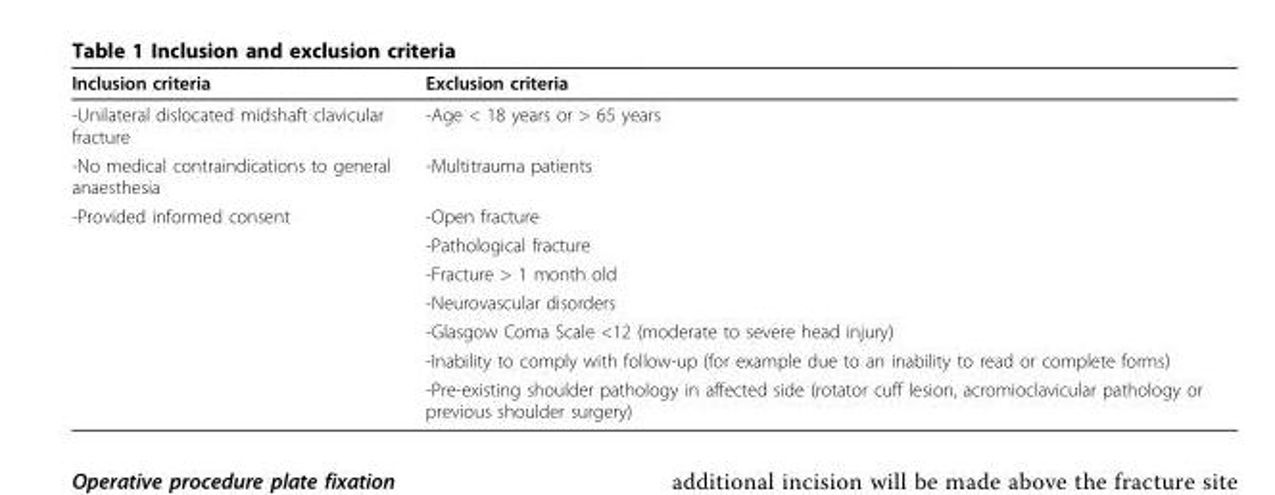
<table><thead><tr><td>Inclusion criteria</td><td>Exclusion criteria</td></tr></thead><tbody><tr><td>-Unilateral dislocated midshaft clavicular fracture</td><td>-Age &lt; 18 years or &gt; 65 years</td></tr><tr><td>-No medical contraindications to general anaesthesia</td><td>-Multitrauma patients</td></tr><tr><td rowspan="7">-Provided informed consent</td><td>-Open fracture</td></tr><tr><td>-Pathological fracture</td></tr><tr><td>-Fracture &gt; 1 month old</td></tr><tr><td>-Neurovascular disorders</td></tr><tr><td>-Glasgow Coma Scale &lt;12 (moderate to severe head injury)</td></tr><tr><td>-Inability to comply with follow-up (for example due to an inability to read or complete forms)</td></tr><tr><td>-Pre-existing shoulder pathology in affected side (rotator cuff lesion, acromioclavicular pathology or previous shoulder surgery)</td></tr></tbody></table>